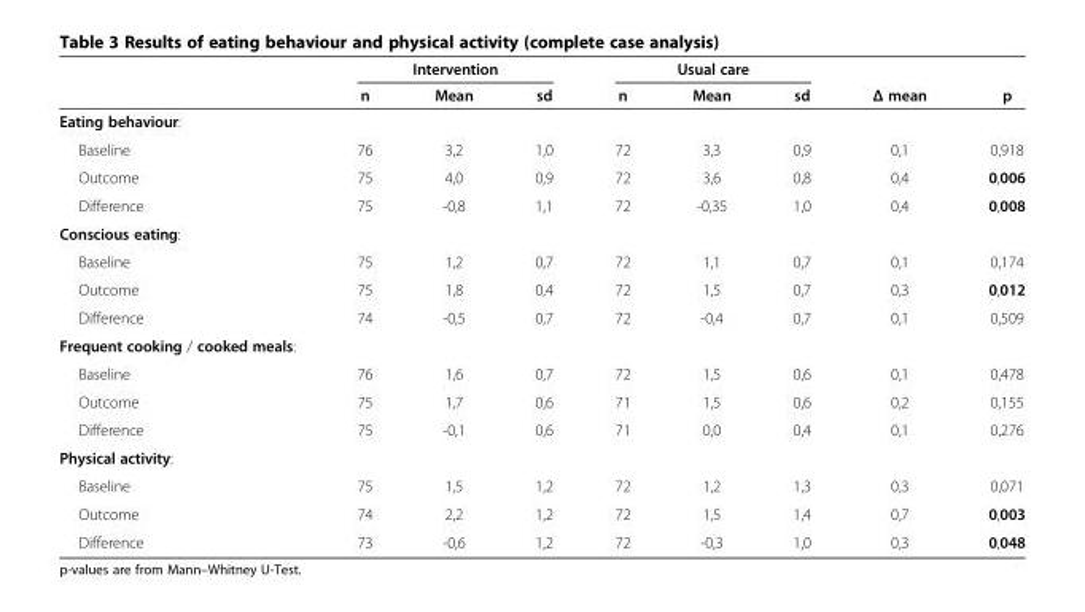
<table><thead><tr><td rowspan="2"></td><td colspan="3">Intervention</td><td colspan="3">Usual care</td><td rowspan="2">Δ mean</td><td rowspan="2">p</td></tr><tr><td>n</td><td>Mean</td><td>sd</td><td>n</td><td>Mean</td><td>sd</td></tr></thead><tbody><tr><td colspan="9">Eating behaviour:</td></tr><tr><td>Baseline</td><td>76</td><td>3,2</td><td>1,0</td><td>72</td><td>3,3</td><td>0,9</td><td>0,1</td><td>0,918</td></tr><tr><td>Outcome</td><td>75</td><td>4,0</td><td>0,9</td><td>72</td><td>3,6</td><td>0,8</td><td>0,4</td><td>0,006</td></tr><tr><td>Difference</td><td>75</td><td>-0,8</td><td>1,1</td><td>72</td><td>-0,35</td><td>1,0</td><td>0,4</td><td>0,008</td></tr><tr><td colspan="9">Conscious eating:</td></tr><tr><td>Baseline</td><td>75</td><td>1,2</td><td>0,7</td><td>72</td><td>1,1</td><td>0,7</td><td>0,1</td><td>0,174</td></tr><tr><td>Outcome</td><td>75</td><td>1,8</td><td>0,4</td><td>72</td><td>1,5</td><td>0,7</td><td>0,3</td><td>0,012</td></tr><tr><td>Difference</td><td>74</td><td>-0,5</td><td>0,7</td><td>72</td><td>-0,4</td><td>0,7</td><td>0,1</td><td>0,509</td></tr><tr><td colspan="9">Frequent cooking / cooked meals:</td></tr><tr><td>Baseline</td><td>76</td><td>1,6</td><td>0,7</td><td>72</td><td>1,5</td><td>0,6</td><td>0,1</td><td>0,478</td></tr><tr><td>Outcome</td><td>75</td><td>1,7</td><td>0,6</td><td>71</td><td>1,5</td><td>0,6</td><td>0,2</td><td>0,155</td></tr><tr><td>Difference</td><td>75</td><td>-0,1</td><td>0,6</td><td>71</td><td>0,0</td><td>0,4</td><td>0,1</td><td>0,276</td></tr><tr><td colspan="9">Physical activity:</td></tr><tr><td>Baseline</td><td>75</td><td>1,5</td><td>1,2</td><td>72</td><td>1,2</td><td>1,3</td><td>0,3</td><td>0,071</td></tr><tr><td>Outcome</td><td>74</td><td>2,2</td><td>1,2</td><td>72</td><td>1,5</td><td>1,4</td><td>0,7</td><td>0,003</td></tr><tr><td>Difference</td><td>73</td><td>-0,6</td><td>1,2</td><td>72</td><td>-0,3</td><td>1,0</td><td>0,3</td><td>0,048</td></tr></tbody></table>